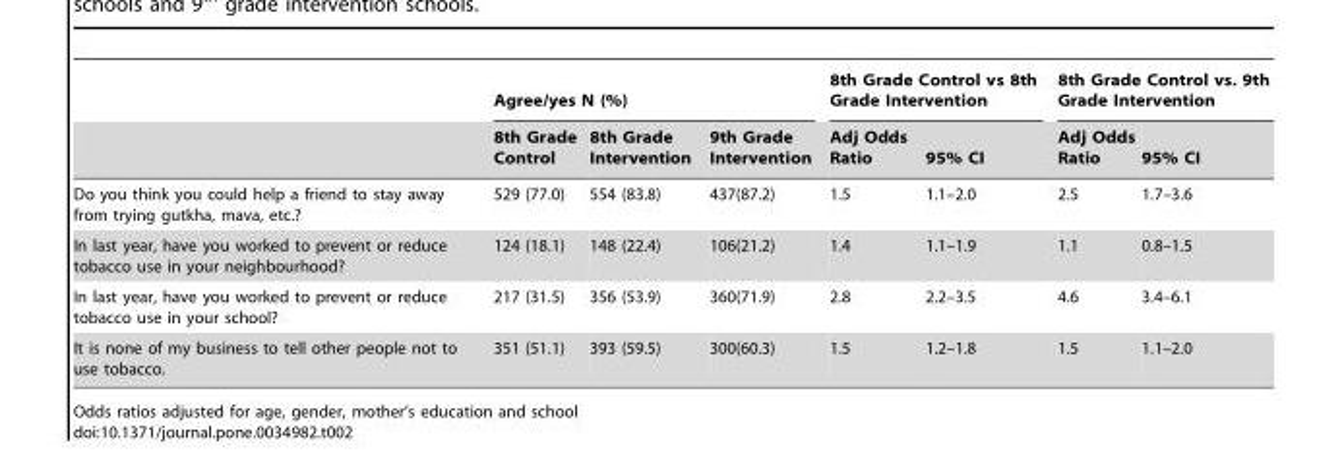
<table><thead><tr><td rowspan="2"></td><td colspan="3">Agree/yes N (%)</td><td colspan="2">8th Grade Control vs 8th Grade Intervention</td><td colspan="2">8th Grade Control vs. 9th Grade Intervention</td></tr><tr><td>8th Grade Control</td><td>8th Grade Intervention</td><td>9th Grade Intervention</td><td>Adj Odds Ratio</td><td>95% CI</td><td>Adj Odds Ratio</td><td>95% CI</td></tr></thead><tbody><tr><td>Do you think you could help a friend to stay away from trying gutkha, mava, etc.?</td><td>529 (77.0)</td><td>554 (83.8)</td><td>437(87.2)</td><td>1.5</td><td>1.1–2.0</td><td>2.5</td><td>1.7–3.6</td></tr><tr><td>In last year, have you worked to prevent or reduce tobacco use in your neighbourhood?</td><td>124 (18.1)</td><td>148 (22.4)</td><td>106(21.2)</td><td>1.4</td><td>1.1–1.9</td><td>1.1</td><td>0.8–1.5</td></tr><tr><td>In last year, have you worked to prevent or reduce tobacco use in your school?</td><td>217 (31.5)</td><td>356 (53.9)</td><td>360(71.9)</td><td>2.8</td><td>2.2–3.5</td><td>4.6</td><td>3.4–6.1</td></tr><tr><td>It is none of my business to tell other people not to use tobacco.</td><td>351 (51.1)</td><td>393 (59.5)</td><td>300(60.3)</td><td>1.5</td><td>1.2–1.8</td><td>1.5</td><td>1.1–2.0</td></tr></tbody></table>